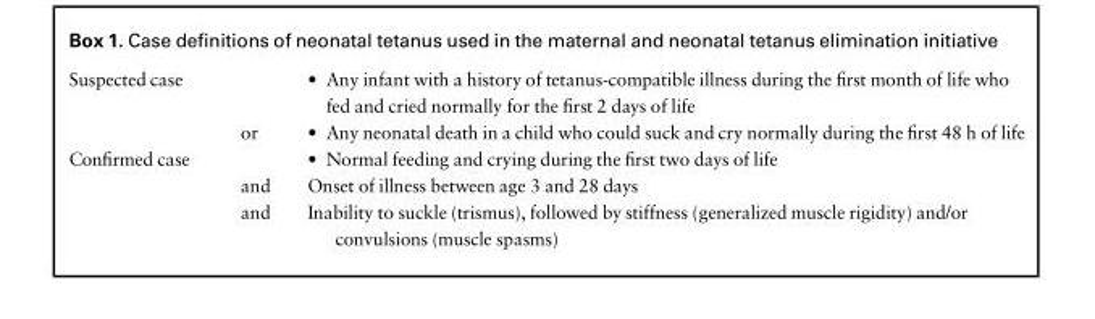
<table><tbody><tr><td rowspan="2">Suspected case</td><td></td><td>• Any infant with a history of tetanus-compatible illness during the first month of life who fed and cried normally for the first 2 days of life</td></tr><tr><td>or</td><td>• Any neonatal death in a child who could suck and cry normally during the first 48 h of life</td></tr><tr><td rowspan="3">Confirmed case</td><td></td><td>• Normal feeding and crying during the first two days of life</td></tr><tr><td>and</td><td>Onset of illness between age 3 and 28 days</td></tr><tr><td>and</td><td>Inability to suckle (trismus), followed by stiffness (generalized muscle rigidity) and/or convulsions (muscle spasms)</td></tr></tbody></table>